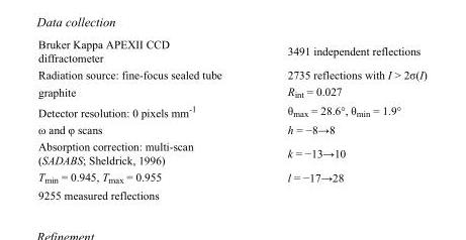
<table><tbody><tr><td>Bruker Kappa APEXII CCD diffractometer</td><td>3491 independent reflections</td></tr><tr><td>Radiation source: fine-focus sealed tube</td><td>2735 reflections with I &gt; 2σ(I)</td></tr><tr><td>graphite</td><td>R<sub>int</sub> = 0.027</td></tr><tr><td>Detector resolution: 0 pixels mm<sup>-1</sup></td><td>θ<sub>max</sub> = 28.6°, θ<sub>min</sub> = 1.9°</td></tr><tr><td>ω and φ scans</td><td>h = −8→8</td></tr><tr><td>Absorption correction: multi-scan (SADABS; Sheldrick, 1996)</td><td>k = −13→10</td></tr><tr><td>T<sub>min</sub> = 0.945, T<sub>max</sub> = 0.955</td><td>l = −17→28</td></tr><tr><td>9255 measured reflections</td><td></td></tr></tbody></table>